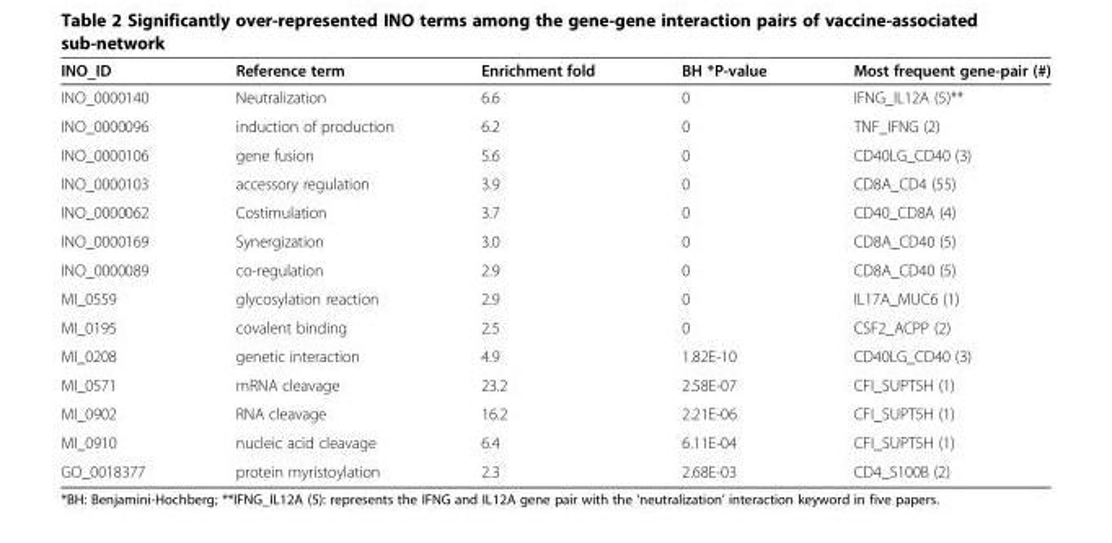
<table><thead><tr><td>INO_ID</td><td>Reference term</td><td>Enrichment fold</td><td>BH *P-value</td><td>Most frequent gene-pair (#)</td></tr></thead><tbody><tr><td>INO_0000140</td><td>Neutralization</td><td>6.6</td><td>0</td><td>IFNG_IL12A (5)**</td></tr><tr><td>INO_0000096</td><td>induction of production</td><td>6.2</td><td>0</td><td>TNF_IFNG (2)</td></tr><tr><td>INO_0000106</td><td>gene fusion</td><td>5.6</td><td>0</td><td>CD40LG_CD40 (3)</td></tr><tr><td>INO_0000103</td><td>accessory regulation</td><td>3.9</td><td>0</td><td>CD8A_CD4 (55)</td></tr><tr><td>INO_0000062</td><td>Costimulation</td><td>3.7</td><td>0</td><td>CD40_CD8A (4)</td></tr><tr><td>INO_0000169</td><td>Synergization</td><td>3.0</td><td>0</td><td>CD8A_CD40 (5)</td></tr><tr><td>INO_0000089</td><td>co-regulation</td><td>2.9</td><td>0</td><td>CD8A_CD40 (5)</td></tr><tr><td>MI_0559</td><td>glycosylation reaction</td><td>2.9</td><td>0</td><td>IL17A_MUC6 (1)</td></tr><tr><td>MI_0195</td><td>covalent binding</td><td>2.5</td><td>0</td><td>CSF2_ACPP (2)</td></tr><tr><td>MI_0208</td><td>genetic interaction</td><td>4.9</td><td>1.82E-10</td><td>CD40LG_CD40 (3)</td></tr><tr><td>MI_0571</td><td>mRNA cleavage</td><td>23.2</td><td>2.58E-07</td><td>CFI_SUPT5H (1)</td></tr><tr><td>MI_0902</td><td>RNA cleavage</td><td>16.2</td><td>2.21E-06</td><td>CFI_SUPT5H (1)</td></tr><tr><td>MI_0910</td><td>nucleic acid cleavage</td><td>6.4</td><td>6.11E-04</td><td>CFI_SUPT5H (1)</td></tr><tr><td>GO_0018377</td><td>protein myristoylation</td><td>2.3</td><td>2.68E-03</td><td>CD4_S100B (2)</td></tr></tbody></table>